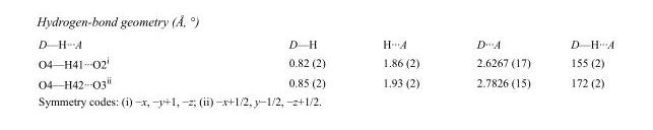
<table><tbody><tr><td>D—H···A</td><td>D—H</td><td>H···A</td><td>D···A</td><td>D—H···A</td></tr><tr><td>O4—H41···O2<sup>i</sup></td><td>0.82 (2)</td><td>1.86 (2)</td><td>2.6267 (17)</td><td>155 (2)</td></tr><tr><td>O4—H42···O3<sup>ii</sup></td><td>0.85 (2)</td><td>1.93 (2)</td><td>2.7826 (15)</td><td>172 (2)</td></tr></tbody></table>